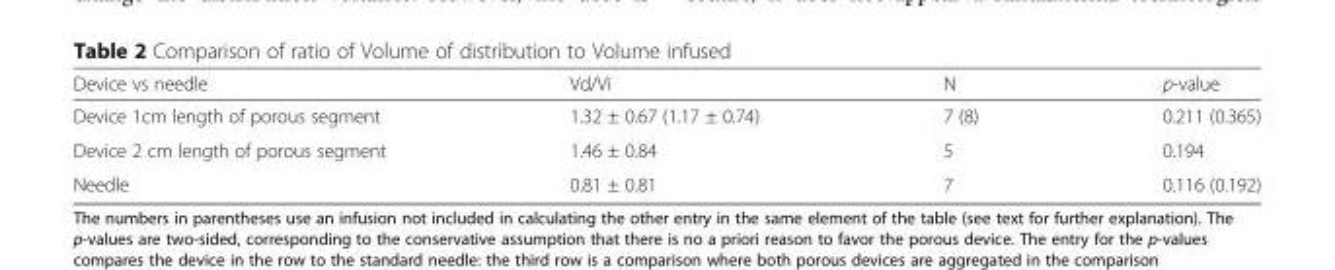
<table><thead><tr><td>Device vs needle</td><td>Vd/Vi</td><td>N</td><td>p-value</td></tr></thead><tbody><tr><td>Device 1cm length of porous segment</td><td>1.32 ± 0.67 (1.17 ± 0.74)</td><td>7 (8)</td><td>0.211 (0.365)</td></tr><tr><td>Device 2 cm length of porous segment</td><td>1.46 ± 0.84</td><td>5</td><td>0.194</td></tr><tr><td>Needle</td><td>0.81 ± 0.81</td><td>7</td><td>0.116 (0.192)</td></tr></tbody></table>